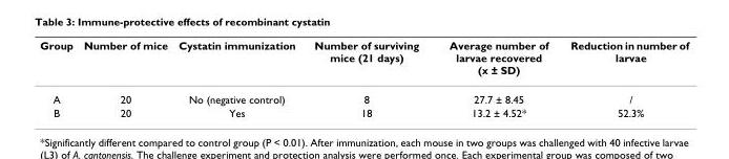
<table><thead><tr><td>Group</td><td>Number of mice</td><td>Cystatin immunization</td><td>Number of surviving mice (21 days)</td><td>Average number of larvae recovered (x ± SD)</td><td>Reduction in number of larvae</td></tr></thead><tbody><tr><td>A</td><td>20</td><td>No (negative control)</td><td>8</td><td>27.7 ± 8.45</td><td>/</td></tr><tr><td>B</td><td>20</td><td>Yes</td><td>18</td><td>13.2 ± 4.52*</td><td>52.3%</td></tr></tbody></table>